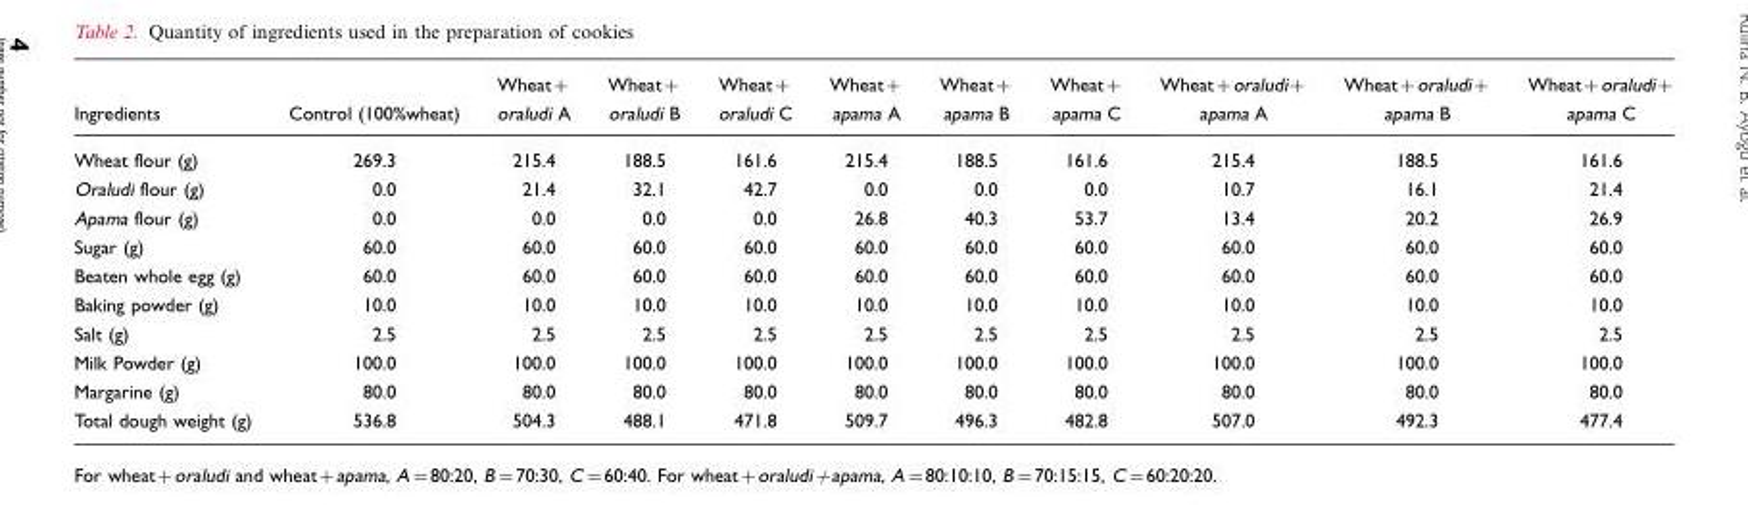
<table><thead><tr><td>Ingredients</td><td>Control (100%wheat)</td><td>Wheat+ oraludi A</td><td>Wheat+ oraludi B</td><td>Wheat+ oraludi C</td><td>Wheat+ apama A</td><td>Wheat+ apama B</td><td>Wheat+ apama C</td><td>Wheat+oraludi+ apama A</td><td>Wheat+oraludi+ apama B</td><td>Wheat+oraludi+ apama C</td></tr></thead><tbody><tr><td>Wheat flour (g)</td><td>269.3</td><td>215.4</td><td>188.5</td><td>161.6</td><td>215.4</td><td>188.5</td><td>161.6</td><td>215.4</td><td>188.5</td><td>161.6</td></tr><tr><td>Oraludi flour (g)</td><td>0.0</td><td>21.4</td><td>32.1</td><td>42.7</td><td>0.0</td><td>0.0</td><td>0.0</td><td>10.7</td><td>16.1</td><td>21.4</td></tr><tr><td>Apama flour (g)</td><td>0.0</td><td>0.0</td><td>0.0</td><td>0.0</td><td>26.8</td><td>40.3</td><td>53.7</td><td>13.4</td><td>20.2</td><td>26.9</td></tr><tr><td>Sugar (g)</td><td>60.0</td><td>60.0</td><td>60.0</td><td>60.0</td><td>60.0</td><td>60.0</td><td>60.0</td><td>60.0</td><td>60.0</td><td>60.0</td></tr><tr><td>Beaten whole egg (g)</td><td>60.0</td><td>60.0</td><td>60.0</td><td>60.0</td><td>60.0</td><td>60.0</td><td>60.0</td><td>60.0</td><td>60.0</td><td>60.0</td></tr><tr><td>Baking powder (g)</td><td>10.0</td><td>10.0</td><td>10.0</td><td>10.0</td><td>10.0</td><td>10.0</td><td>10.0</td><td>10.0</td><td>10.0</td><td>10.0</td></tr><tr><td>Salt (g)</td><td>2.5</td><td>2.5</td><td>2.5</td><td>2.5</td><td>2.5</td><td>2.5</td><td>2.5</td><td>2.5</td><td>2.5</td><td>2.5</td></tr><tr><td>Milk Powder (g)</td><td>100.0</td><td>100.0</td><td>100.0</td><td>100.0</td><td>100.0</td><td>100.0</td><td>100.0</td><td>100.0</td><td>100.0</td><td>100.0</td></tr><tr><td>Margarine (g)</td><td>80.0</td><td>80.0</td><td>80.0</td><td>80.0</td><td>80.0</td><td>80.0</td><td>80.0</td><td>80.0</td><td>80.0</td><td>80.0</td></tr><tr><td>Total dough weight (g)</td><td>536.8</td><td>504.3</td><td>488.1</td><td>471.8</td><td>509.7</td><td>496.3</td><td>482.8</td><td>507.0</td><td>492.3</td><td>477.4</td></tr></tbody></table>